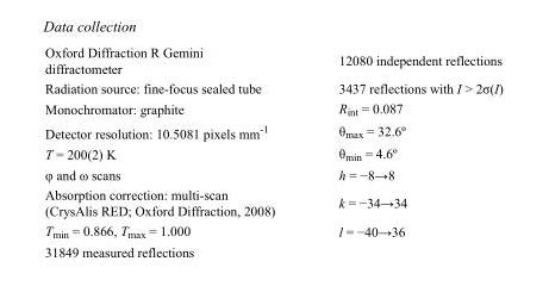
<table><tbody><tr><td>Oxford Diffraction R Gemini diffractometer</td><td>12080 independent reflections</td></tr><tr><td>Radiation source: fine-focus sealed tube</td><td>3437 reflections with I &gt; 2σ(I)</td></tr><tr><td>Monochromator: graphite</td><td>R<sub>int</sub> = 0.087</td></tr><tr><td>Detector resolution: 10.5081 pixels mm<sup>-1</sup></td><td>θ<sub>max</sub> = 32.6º</td></tr><tr><td>T = 200(2) K</td><td>θ<sub>min</sub> = 4.6º</td></tr><tr><td>φ and ω scans</td><td>h = −8→8</td></tr><tr><td>Absorption correction: multi-scan (CrysAlis RED; Oxford Diffraction, 2008)</td><td>k = −34→34</td></tr><tr><td>T<sub>min</sub> = 0.866, T<sub>max</sub> = 1.000</td><td>l = −40→36</td></tr><tr><td>31849 measured reflections</td><td></td></tr></tbody></table>